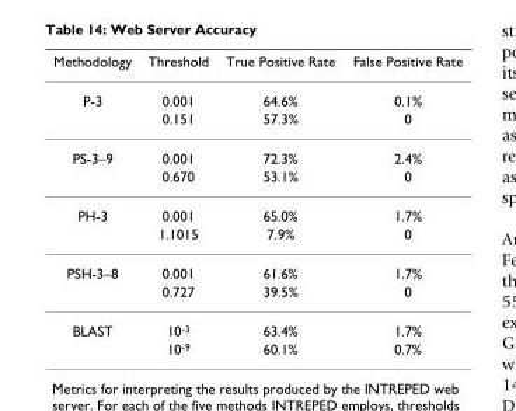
<table><thead><tr><td>Methodology</td><td>Threshold</td><td>True Positive Rate</td><td>False Positive Rate</td></tr></thead><tbody><tr><td rowspan="2">P-3</td><td>0.001</td><td>64.6%</td><td>0.1%</td></tr><tr><td>0.151</td><td>57.3%</td><td>0</td></tr><tr><td rowspan="2">PS-3–9</td><td>0.001</td><td>72.3%</td><td>2.4%</td></tr><tr><td>0.670</td><td>53.1%</td><td>0</td></tr><tr><td rowspan="2">PH-3</td><td>0.001</td><td>65.0%</td><td>1.7%</td></tr><tr><td>1.1015</td><td>7.9%</td><td>0</td></tr><tr><td rowspan="2">PSH-3–8</td><td>0.001</td><td>61.6%</td><td>1.7%</td></tr><tr><td>0.727</td><td>39.5%</td><td>0</td></tr><tr><td rowspan="2">BLAST</td><td>10<sup>-3</sup></td><td>63.4%</td><td>1.7%</td></tr><tr><td>10<sup>-9</sup></td><td>60.1%</td><td>0.7%</td></tr></tbody></table>